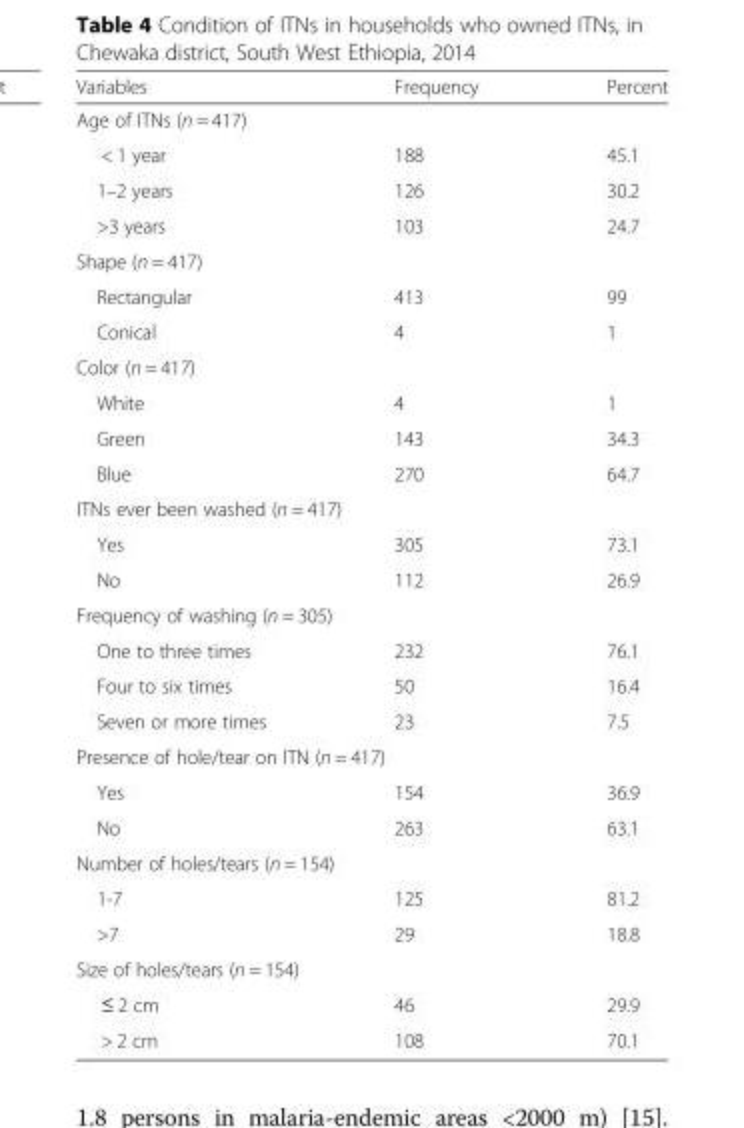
<table><thead><tr><td>Variables</td><td>Frequency</td><td>Percent</td></tr></thead><tbody><tr><td colspan="3">Age of ITNs (n = 417)</td></tr><tr><td>&lt; 1 year</td><td>188</td><td>45.1</td></tr><tr><td>1–2 years</td><td>126</td><td>30.2</td></tr><tr><td>&gt;3 years</td><td>103</td><td>24.7</td></tr><tr><td colspan="3">Shape (n = 417)</td></tr><tr><td>Rectangular</td><td>413</td><td>99</td></tr><tr><td>Conical</td><td>4</td><td>1</td></tr><tr><td colspan="3">Color (n = 417)</td></tr><tr><td>White</td><td>4</td><td>1</td></tr><tr><td>Green</td><td>143</td><td>34.3</td></tr><tr><td>Blue</td><td>270</td><td>64.7</td></tr><tr><td colspan="3">ITNs ever been washed (n = 417)</td></tr><tr><td>Yes</td><td>305</td><td>73.1</td></tr><tr><td>No</td><td>112</td><td>26.9</td></tr><tr><td colspan="3">Frequency of washing (n = 305)</td></tr><tr><td>One to three times</td><td>232</td><td>76.1</td></tr><tr><td>Four to six times</td><td>50</td><td>16.4</td></tr><tr><td>Seven or more times</td><td>23</td><td>7.5</td></tr><tr><td colspan="3">Presence of hole/tear on ITN (n = 417)</td></tr><tr><td>Yes</td><td>154</td><td>36.9</td></tr><tr><td>No</td><td>263</td><td>63.1</td></tr><tr><td colspan="3">Number of holes/tears (n = 154)</td></tr><tr><td>1-7</td><td>125</td><td>81.2</td></tr><tr><td>&gt;7</td><td>29</td><td>18.8</td></tr><tr><td colspan="3">Size of holes/tears (n = 154)</td></tr><tr><td>≤ 2 cm</td><td>46</td><td>29.9</td></tr><tr><td>&gt; 2 cm</td><td>108</td><td>70.1</td></tr></tbody></table>